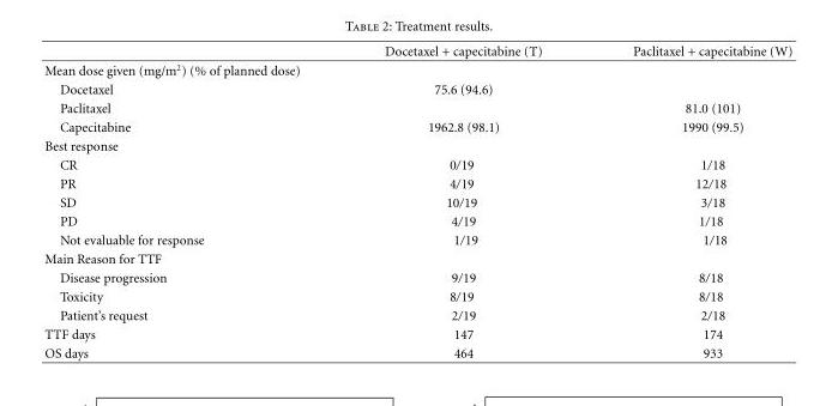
<table><thead><tr><td></td><td>Docetaxel + capecitabine (T)</td><td>Paclitaxel + capecitabine (W)</td></tr></thead><tbody><tr><td colspan="3">Mean dose given (mg/m<sup>2</sup>) (% of planned dose)</td></tr><tr><td>Docetaxel</td><td>75.6 (94.6)</td><td></td></tr><tr><td>Paclitaxel</td><td></td><td>81.0 (101)</td></tr><tr><td>Capecitabine</td><td>1962.8 (98.1)</td><td>1990 (99.5)</td></tr><tr><td colspan="3">Best response</td></tr><tr><td>CR</td><td>0/19</td><td>1/18</td></tr><tr><td>PR</td><td>4/19</td><td>12/18</td></tr><tr><td>SD</td><td>10/19</td><td>3/18</td></tr><tr><td>PD</td><td>4/19</td><td>1/18</td></tr><tr><td>Not evaluable for response</td><td>1/19</td><td>1/18</td></tr><tr><td colspan="3">Main Reason for TTF</td></tr><tr><td>Disease progression</td><td>9/19</td><td>8/18</td></tr><tr><td>Toxicity</td><td>8/19</td><td>8/18</td></tr><tr><td>Patient’s request</td><td>2/19</td><td>2/18</td></tr><tr><td>TTF days</td><td>147</td><td>174</td></tr><tr><td>OS days</td><td>464</td><td>933</td></tr></tbody></table>